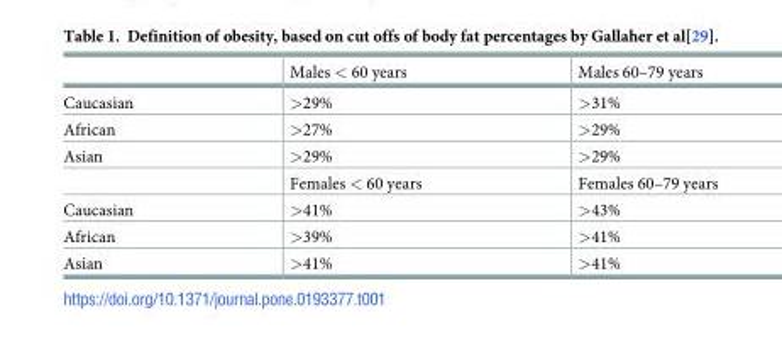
<table><thead><tr><td></td><td>Males &lt; 60 years</td><td>Males 60–79 years</td></tr></thead><tbody><tr><td>Caucasian</td><td>&gt;29%</td><td>&gt;31%</td></tr><tr><td>African</td><td>&gt;27%</td><td>&gt;29%</td></tr><tr><td rowspan="2">Asian</td><td>&gt;29%</td><td>&gt;29%</td></tr><tr><td>Females &lt; 60 years</td><td>Females 60–79 years</td></tr><tr><td>Caucasian</td><td>&gt;41%</td><td>&gt;43%</td></tr><tr><td>African</td><td>&gt;39%</td><td>&gt;41%</td></tr><tr><td>Asian</td><td>&gt;41%</td><td>&gt;41%</td></tr></tbody></table>